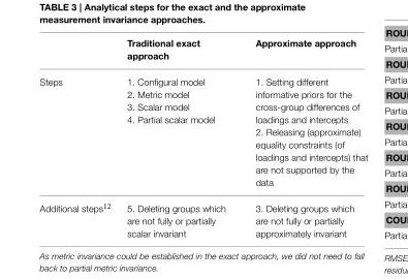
<table><thead><tr><td></td><td>Traditional exact approach</td><td>Approximate approach</td></tr></thead><tbody><tr><td>Steps</td><td>1. Configural model 2. Metric model 3. Scalar model 4. Partial scalar model</td><td>1. Setting different informative priors for the cross-group differences of loadings and intercepts 2. Releasing (approximate) equality constraints (of loadings and intercepts) that are not supported by the data</td></tr><tr><td>Additional steps<sup>12</sup></td><td>5. Deleting groups which are not fully or partially scalar invariant</td><td>3. Deleting groups which are not fully or partially approximately invariant</td></tr></tbody></table>